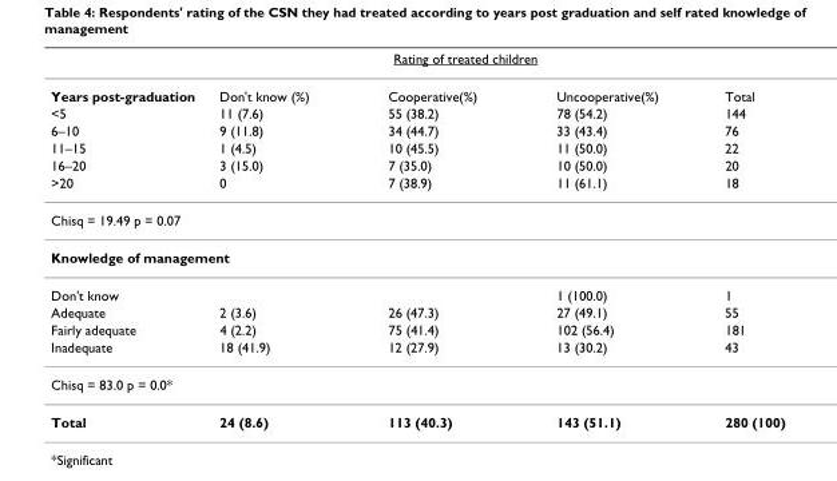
<table><thead><tr><td colspan="5">Rating of treated children</td></tr><tr><td>Years post-graduation</td><td>Don&#x27;t know (%)</td><td>Cooperative(%)</td><td>Uncooperative(%)</td><td>Total</td></tr></thead><tbody><tr><td>&lt;5</td><td>11 (7.6)</td><td>55 (38.2)</td><td>78 (54.2)</td><td>144</td></tr><tr><td>6–10</td><td>9 (11.8)</td><td>34 (44.7)</td><td>33 (43.4)</td><td>76</td></tr><tr><td>11–15</td><td>1 (4.5)</td><td>10 (45.5)</td><td>11 (50.0)</td><td>22</td></tr><tr><td>16–20</td><td>3 (15.0)</td><td>7 (35.0)</td><td>10 (50.0)</td><td>20</td></tr><tr><td>&gt;20</td><td>0</td><td>7 (38.9)</td><td>11 (61.1)</td><td>18</td></tr><tr><td colspan="5">Chisq = 19.49 p = 0.07</td></tr><tr><td colspan="5">Knowledge of management</td></tr><tr><td>Don&#x27;t know</td><td></td><td></td><td>1 (100.0)</td><td>1</td></tr><tr><td>Adequate</td><td>2 (3.6)</td><td>26 (47.3)</td><td>27 (49.1)</td><td>55</td></tr><tr><td>Fairly adequate</td><td>4 (2.2)</td><td>75 (41.4)</td><td>102 (56.4)</td><td>181</td></tr><tr><td>Inadequate</td><td>18 (41.9)</td><td>12 (27.9)</td><td>13 (30.2)</td><td>43</td></tr><tr><td colspan="5">Chisq = 83.0 p = 0.0*</td></tr><tr><td>Total</td><td>24 (8.6)</td><td>113 (40.3)</td><td>143 (51.1)</td><td>280 (100)</td></tr></tbody></table>